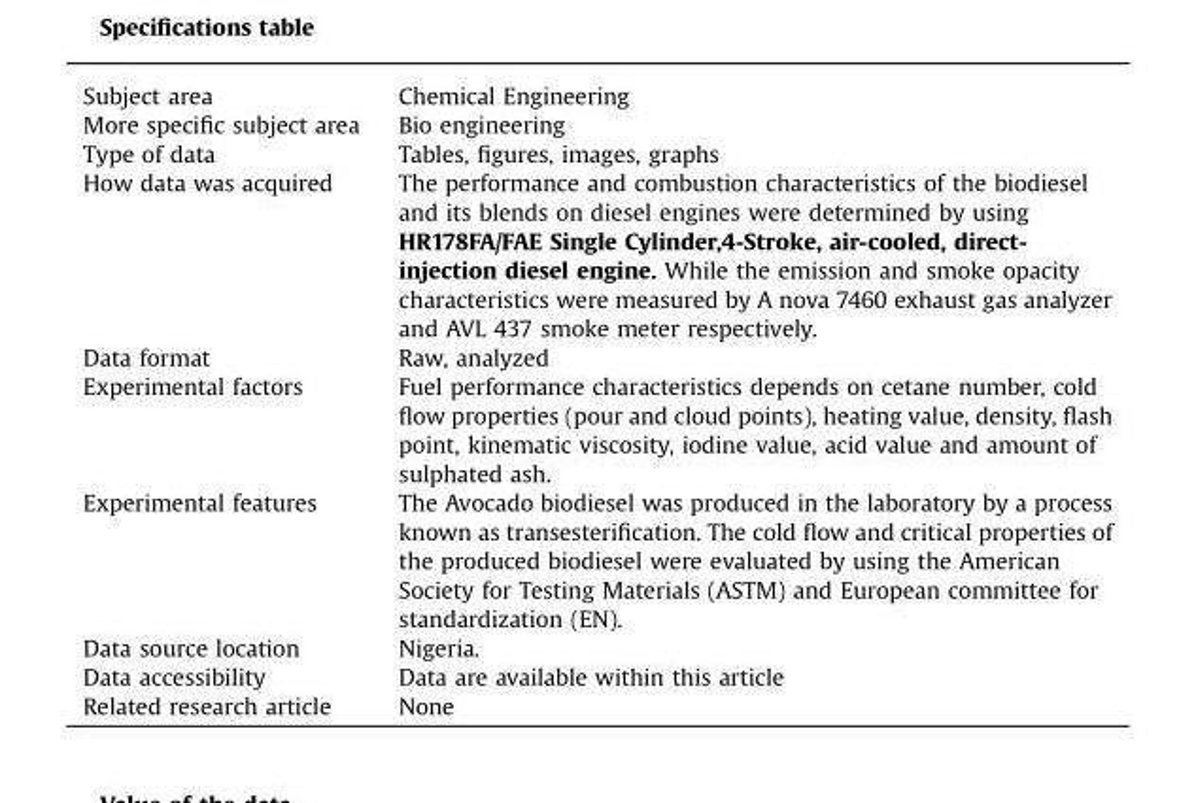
<table><tbody><tr><td>Subject area</td><td>Chemical Engineering</td></tr><tr><td>More specific subject area</td><td>Bio engineering</td></tr><tr><td>Type of data</td><td>Tables, figures, images, graphs</td></tr><tr><td>How data was acquired</td><td>The performance and combustion characteristics of the biodiesel and its blends on diesel engines were determined by using HR178FA/FAE Single Cylinder,4-Stroke, air-cooled, direct- injection diesel engine. While the emission and smoke opacity characteristics were measured by A nova 7460 exhaust gas analyzer and AVL 437 smoke meter respectively.</td></tr><tr><td>Data format</td><td>Raw, analyzed</td></tr><tr><td>Experimental factors</td><td>Fuel performance characteristics depends on cetane number, cold flow properties (pour and cloud points), heating value, density, flash point, kinematic viscosity, iodine value, acid value and amount of sulphated ash.</td></tr><tr><td>Experimental features</td><td>The Avocado biodiesel was produced in the laboratory by a process known as transesterification. The cold flow and critical properties of the produced biodiesel were evaluated by using the American Society for Testing Materials (ASTM) and European committee for standardization (EN).</td></tr><tr><td>Data source location</td><td>Nigeria.</td></tr><tr><td>Data accessibility</td><td>Data are available within this article</td></tr><tr><td>Related research article</td><td>None</td></tr></tbody></table>